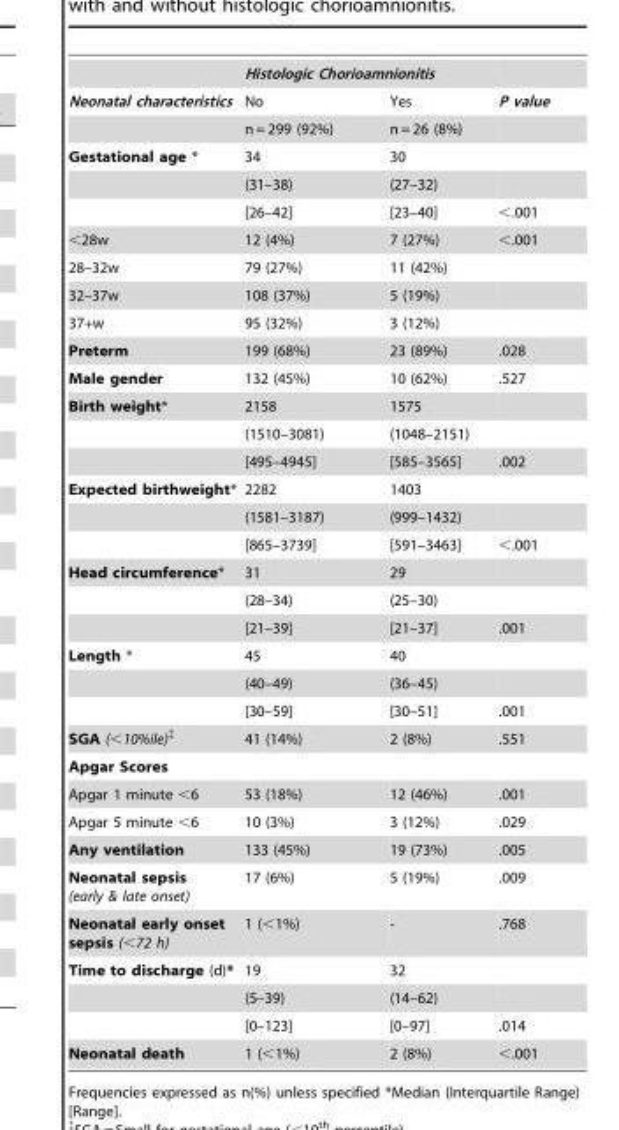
<table><thead><tr><td rowspan="2">Neonatal characteristics</td><td colspan="2">Histologic Chorioamnionitis</td><td rowspan="2">P value</td></tr><tr><td>No</td><td>Yes</td></tr></thead><tbody><tr><td></td><td>n = 299 (92%)</td><td>n = 26 (8%)</td><td></td></tr><tr><td rowspan="3">Gestational age *</td><td>34</td><td>30</td><td></td></tr><tr><td>(31–38)</td><td>(27–32)</td><td></td></tr><tr><td>[26–42]</td><td>[23–40]</td><td>&lt;.001</td></tr><tr><td>&lt;28w</td><td>12 (4%)</td><td>7 (27%)</td><td>&lt;.001</td></tr><tr><td>28–32w</td><td>79 (27%)</td><td>11 (42%)</td><td></td></tr><tr><td>32–37w</td><td>108 (37%)</td><td>5 (19%)</td><td></td></tr><tr><td>37+w</td><td>95 (32%)</td><td>3 (12%)</td><td></td></tr><tr><td>Preterm</td><td>199 (68%)</td><td>23 (89%)</td><td>.028</td></tr><tr><td>Male gender</td><td>132 (45%)</td><td>10 (62%)</td><td>.527</td></tr><tr><td rowspan="3">Birth weight*</td><td>2158</td><td>1575</td><td></td></tr><tr><td>(1510–3081)</td><td>(1048–2151)</td><td></td></tr><tr><td>[495–4945]</td><td>[585–3565]</td><td>.002</td></tr><tr><td rowspan="3">Expected birthweight*</td><td>2282</td><td>1403</td><td></td></tr><tr><td>(1581–3187)</td><td>(999–1432)</td><td></td></tr><tr><td>[865–3739]</td><td>[591–3463]</td><td>&lt;.001</td></tr><tr><td rowspan="3">Head circumference*</td><td>31</td><td>29</td><td></td></tr><tr><td>(28–34)</td><td>(25–30)</td><td></td></tr><tr><td>[21–39]</td><td>[21–37]</td><td>.001</td></tr><tr><td rowspan="3">Length *</td><td>45</td><td>40</td><td></td></tr><tr><td>(40–49)</td><td>(36–45)</td><td></td></tr><tr><td>[30–59]</td><td>[30–51]</td><td>.001</td></tr><tr><td>SGA (&lt;10%ile)‡</td><td>41 (14%)</td><td>2 (8%)</td><td>.551</td></tr><tr><td colspan="4">Apgar Scores</td></tr><tr><td>Apgar 1 minute &lt;6</td><td>53 (18%)</td><td>12 (46%)</td><td>.001</td></tr><tr><td>Apgar 5 minute &lt;6</td><td>10 (3%)</td><td>3 (12%)</td><td>.029</td></tr><tr><td>Any ventilation</td><td>133 (45%)</td><td>19 (73%)</td><td>.005</td></tr><tr><td>Neonatal sepsis (early &amp; late onset)</td><td>17 (6%)</td><td>5 (19%)</td><td>.009</td></tr><tr><td>Neonatal early onset sepsis (&lt;72 h)</td><td>1 (&lt;1%)</td><td>-</td><td>.768</td></tr><tr><td rowspan="3">Time to discharge (d)*</td><td>19</td><td>32</td><td></td></tr><tr><td>(5–39)</td><td>(14–62)</td><td></td></tr><tr><td>[0–123]</td><td>[0–97]</td><td>.014</td></tr><tr><td>Neonatal death</td><td>1 (&lt;1%)</td><td>2 (8%)</td><td>&lt;.001</td></tr></tbody></table>